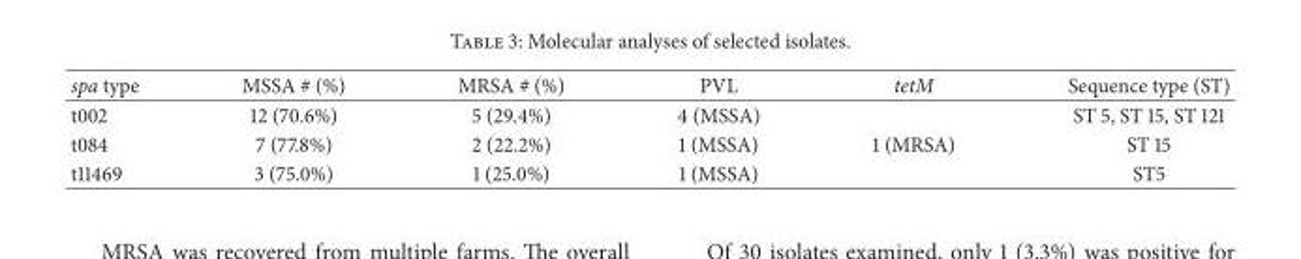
<table><thead><tr><td>spa type</td><td>MSSA # (%)</td><td>MRSA # (%)</td><td>PVL</td><td>tetM</td><td>Sequence type (ST)</td></tr></thead><tbody><tr><td>t002</td><td>12 (70.6%)</td><td>5 (29.4%)</td><td>4 (MSSA)</td><td></td><td>ST 5, ST 15, ST 121</td></tr><tr><td>t084</td><td>7 (77.8%)</td><td>2 (22.2%)</td><td>1 (MSSA)</td><td>1 (MRSA)</td><td>ST 15</td></tr><tr><td>t11469</td><td>3 (75.0%)</td><td>1 (25.0%)</td><td>1 (MSSA)</td><td></td><td>ST5</td></tr></tbody></table>